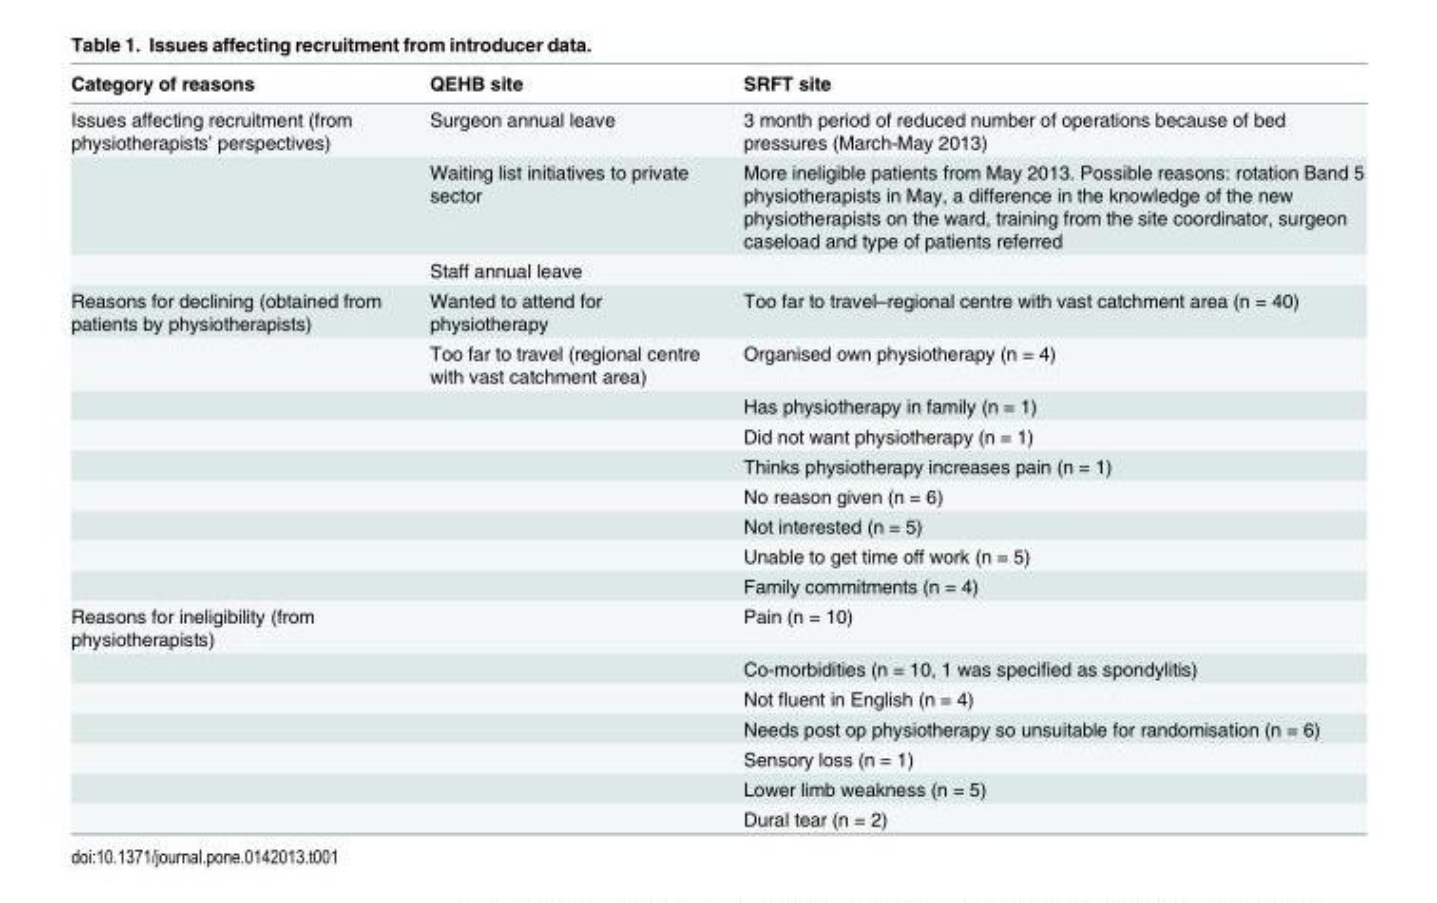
<table><thead><tr><td>Category of reasons</td><td>QEHB site</td><td>SRFT site</td></tr></thead><tbody><tr><td rowspan="3">Issues affecting recruitment (from physiotherapists’ perspectives)</td><td>Surgeon annual leave</td><td>3 month period of reduced number of operations because of bed pressures (March-May 2013)</td></tr><tr><td>Waiting list initiatives to private sector</td><td>More ineligible patients from May 2013. Possible reasons: rotation Band 5 physiotherapists in May, a difference in the knowledge of the new physiotherapists on the ward, training from the site coordinator, surgeon caseload and type of patients referred</td></tr><tr><td>Staff annual leave</td><td></td></tr><tr><td rowspan="9">Reasons for declining (obtained from patients by physiotherapists)</td><td>Wanted to attend for physiotherapy</td><td>Too far to travel–regional centre with vast catchment area (n = 40)</td></tr><tr><td>Too far to travel (regional centre with vast catchment area)</td><td>Organised own physiotherapy (n = 4)</td></tr><tr><td></td><td>Has physiotherapy in family (n = 1)</td></tr><tr><td></td><td>Did not want physiotherapy (n = 1)</td></tr><tr><td></td><td>Thinks physiotherapy increases pain (n = 1)</td></tr><tr><td></td><td>No reason given (n = 6)</td></tr><tr><td></td><td>Not interested (n = 5)</td></tr><tr><td></td><td>Unable to get time off work (n = 5)</td></tr><tr><td></td><td>Family commitments (n = 4)</td></tr><tr><td rowspan="7">Reasons for ineligibility (from physiotherapists)</td><td></td><td>Pain (n = 10)</td></tr><tr><td></td><td>Co-morbidities (n = 10, 1 was specified as spondylitis)</td></tr><tr><td></td><td>Not fluent in English (n = 4)</td></tr><tr><td></td><td>Needs post op physiotherapy so unsuitable for randomisation (n = 6)</td></tr><tr><td></td><td>Sensory loss (n = 1)</td></tr><tr><td></td><td>Lower limb weakness (n = 5)</td></tr><tr><td></td><td>Dural tear (n = 2)</td></tr></tbody></table>